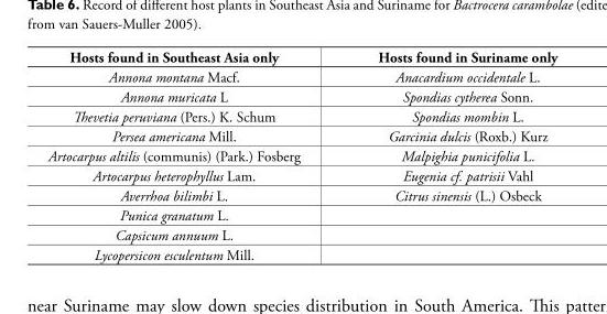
<table><thead><tr><td>Hosts found in Southeast Asia only</td><td>Hosts found in Suriname only</td></tr></thead><tbody><tr><td>Annona montana Macf.</td><td>Anacardium occidentale L.</td></tr><tr><td>Annona muricata L</td><td>Spondias cytherea Sonn.</td></tr><tr><td>Thevetia peruviana (Pers.) K. Schum</td><td>Spondias mombin L.</td></tr><tr><td>Persea americana Mill.</td><td>Garcinia dulcis (Roxb.) Kurz</td></tr><tr><td>Artocarpus altilis (communis) (Park.) Fosberg</td><td>Malpighia punicifolia L.</td></tr><tr><td>Artocarpus heterophyllus Lam.</td><td>Eugenia cf. patrisii Vahl</td></tr><tr><td>Averrhoa bilimbi L.</td><td>Citrus sinensis (L.) Osbeck</td></tr><tr><td colspan="2">Punica granatum L.</td></tr><tr><td colspan="2">Capsicum annuum L.</td></tr><tr><td>Lycopersicon esculentum Mill.</td><td></td></tr></tbody></table>